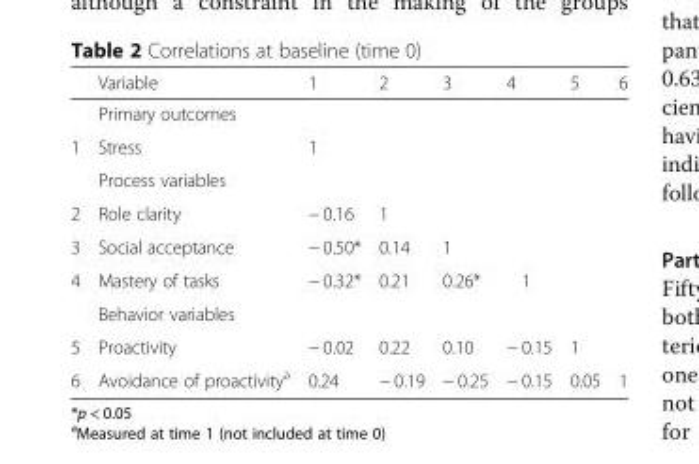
<table><thead><tr><td></td><td>Variable</td><td>1</td><td>2</td><td>3</td><td>4</td><td>5</td><td>6</td></tr></thead><tbody><tr><td></td><td colspan="7">Primary outcomes</td></tr><tr><td rowspan="2">1</td><td>Stress</td><td>1</td><td></td><td></td><td></td><td></td><td></td></tr><tr><td colspan="7">Process variables</td></tr><tr><td>2</td><td>Role clarity</td><td>− 0.16</td><td>1</td><td></td><td></td><td></td><td></td></tr><tr><td>3</td><td>Social acceptance</td><td>− 0.50*</td><td>0.14</td><td>1</td><td></td><td></td><td></td></tr><tr><td rowspan="2">4</td><td>Mastery of tasks</td><td>− 0.32*</td><td>0.21</td><td>0.26*</td><td>1</td><td></td><td></td></tr><tr><td colspan="7">Behavior variables</td></tr><tr><td>5</td><td>Proactivity</td><td>− 0.02</td><td>0.22</td><td>0.10</td><td>− 0.15</td><td>1</td><td></td></tr><tr><td>6</td><td>Avoidance of proactivity<sup>a</sup></td><td>0.24</td><td>− 0.19</td><td>− 0.25</td><td>− 0.15</td><td>0.05</td><td>1</td></tr></tbody></table>